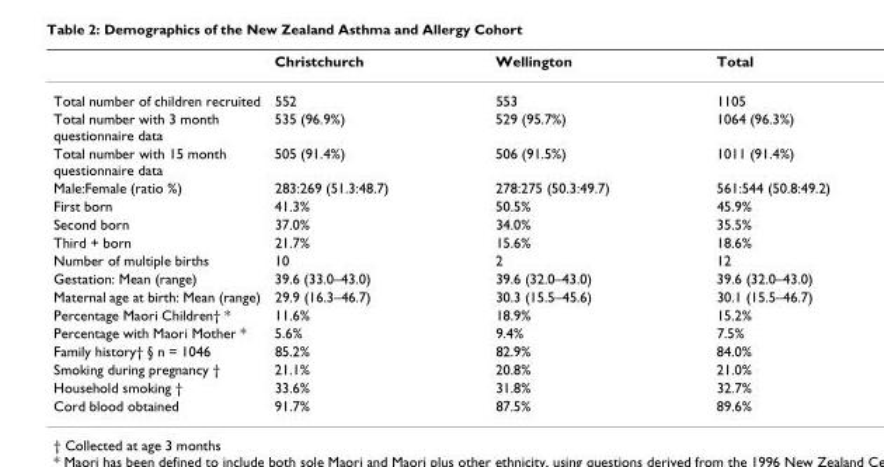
<table><thead><tr><td></td><td>Christchurch</td><td>Wellington</td><td>Total</td></tr></thead><tbody><tr><td>Total number of children recruited</td><td>552</td><td>553</td><td>1105</td></tr><tr><td>Total number with 3 month questionnaire data</td><td>535 (96.9%)</td><td>529 (95.7%)</td><td>1064 (96.3%)</td></tr><tr><td>Total number with 15 month questionnaire data</td><td>505 (91.4%)</td><td>506 (91.5%)</td><td>1011 (91.4%)</td></tr><tr><td>Male:Female (ratio %)</td><td>283:269 (51.3:48.7)</td><td>278:275 (50.3:49.7)</td><td>561:544 (50.8:49.2)</td></tr><tr><td>First born</td><td>41.3%</td><td>50.5%</td><td>45.9%</td></tr><tr><td>Second born</td><td>37.0%</td><td>34.0%</td><td>35.5%</td></tr><tr><td>Third + born</td><td>21.7%</td><td>15.6%</td><td>18.6%</td></tr><tr><td>Number of multiple births</td><td>10</td><td>2</td><td>12</td></tr><tr><td>Gestation: Mean (range)</td><td>39.6 (33.0–43.0)</td><td>39.6 (32.0–43.0)</td><td>39.6 (32.0–43.0)</td></tr><tr><td>Maternal age at birth: Mean (range)</td><td>29.9 (16.3–46.7)</td><td>30.3 (15.5–45.6)</td><td>30.1 (15.5–46.7)</td></tr><tr><td>Percentage Maori Children† *</td><td>11.6%</td><td>18.9%</td><td>15.2%</td></tr><tr><td>Percentage with Maori Mother *</td><td>5.6%</td><td>9.4%</td><td>7.5%</td></tr><tr><td>Family history† § n = 1046</td><td>85.2%</td><td>82.9%</td><td>84.0%</td></tr><tr><td>Smoking during pregnancy †</td><td>21.1%</td><td>20.8%</td><td>21.0%</td></tr><tr><td>Household smoking †</td><td>33.6%</td><td>31.8%</td><td>32.7%</td></tr><tr><td>Cord blood obtained</td><td>91.7%</td><td>87.5%</td><td>89.6%</td></tr></tbody></table>